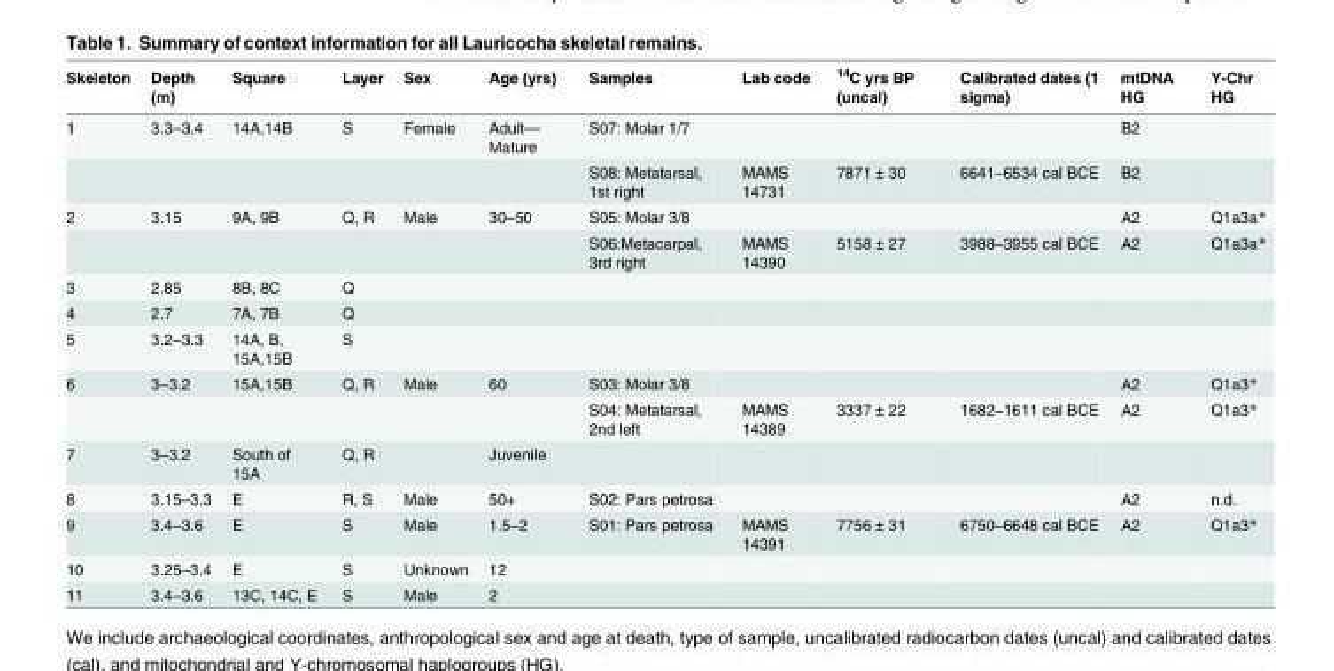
<table><thead><tr><td>Skeleton</td><td>Depth (m)</td><td>Square</td><td>Layer</td><td>Sex</td><td>Age (yrs)</td><td>Samples</td><td>Lab code</td><td><sup>14</sup>C yrs BP (uncal)</td><td>Calibrated dates (1 sigma)</td><td>mtDNA HG</td><td>Y-Chr HG</td></tr></thead><tbody><tr><td rowspan="2">1</td><td>3.3–3.4</td><td>14A,14B</td><td>S</td><td>Female</td><td>Adult— Mature</td><td>S07: Molar 1/7</td><td></td><td></td><td></td><td>B2</td><td></td></tr><tr><td></td><td></td><td></td><td></td><td></td><td>S08: Metatarsal, 1st right</td><td>MAMS 14731</td><td>7871 ± 30</td><td>6641–6534 cal BCE</td><td>B2</td><td></td></tr><tr><td rowspan="2">2</td><td>3.15</td><td>9A, 9B</td><td>Q, R</td><td>Male</td><td>30–50</td><td>S05: Molar 3/8</td><td></td><td></td><td></td><td>A2</td><td>Q1a3a*</td></tr><tr><td></td><td></td><td></td><td></td><td></td><td>S06:Metacarpal, 3rd right</td><td>MAMS 14390</td><td>5158 ± 27</td><td>3988–3955 cal BCE</td><td>A2</td><td>Q1a3a*</td></tr><tr><td>3</td><td>2.85</td><td>8B, 8C</td><td>Q</td><td></td><td></td><td></td><td></td><td></td><td></td><td></td><td></td></tr><tr><td>4</td><td>2.7</td><td>7A, 7B</td><td>Q</td><td></td><td></td><td></td><td></td><td></td><td></td><td></td><td></td></tr><tr><td>5</td><td>3.2–3.3</td><td>14A, B, 15A,15B</td><td>S</td><td></td><td></td><td></td><td></td><td></td><td></td><td></td><td></td></tr><tr><td rowspan="2">6</td><td>3–3.2</td><td>15A,15B</td><td>Q, R</td><td>Male</td><td>60</td><td>S03: Molar 3/8</td><td></td><td></td><td></td><td>A2</td><td>Q1a3*</td></tr><tr><td></td><td></td><td></td><td></td><td></td><td>S04: Metatarsal, 2nd left</td><td>MAMS 14389</td><td>3337 ± 22</td><td>1682–1611 cal BCE</td><td>A2</td><td>Q1a3*</td></tr><tr><td>7</td><td>3–3.2</td><td>South of 15A</td><td>Q, R</td><td></td><td>Juvenile</td><td></td><td></td><td></td><td></td><td></td><td></td></tr><tr><td>8</td><td>3.15–3.3</td><td>E</td><td>R, S</td><td>Male</td><td>50+</td><td>S02: Pars petrosa</td><td></td><td></td><td></td><td>A2</td><td>n.d.</td></tr><tr><td>9</td><td>3.4–3.6</td><td>E</td><td>S</td><td>Male</td><td>1.5–2</td><td>S01: Pars petrosa</td><td>MAMS 14391</td><td>7756 ± 31</td><td>6750–6648 cal BCE</td><td>A2</td><td>Q1a3*</td></tr><tr><td>10</td><td>3.25–3.4</td><td>E</td><td>S</td><td>Unknown</td><td>12</td><td></td><td></td><td></td><td></td><td></td><td></td></tr><tr><td>11</td><td>3.4–3.6</td><td>13C, 14C, E</td><td>S</td><td>Male</td><td>2</td><td></td><td></td><td></td><td></td><td></td><td></td></tr></tbody></table>